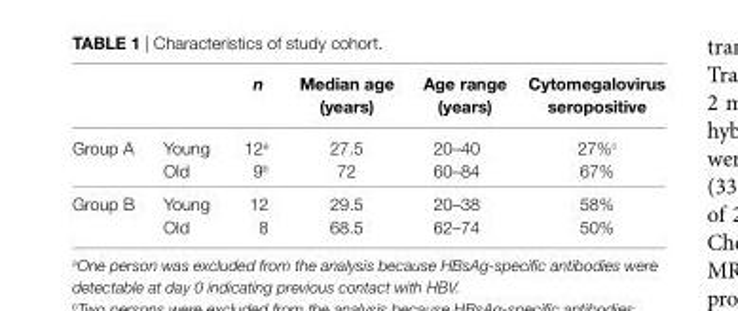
<table><thead><tr><td></td><td></td><td>n</td><td>Median age (years)</td><td>age range (years)</td><td>cytomegalovirus seropositive</td></tr></thead><tbody><tr><td rowspan="2">Group A</td><td>Young</td><td>12<sup>a</sup></td><td>27.5</td><td>20–40</td><td>27%<sup>c</sup></td></tr><tr><td>Old</td><td>9<sup>b</sup></td><td>72</td><td>60–84</td><td>67%</td></tr><tr><td rowspan="2">Group B</td><td>Young</td><td>12</td><td>29.5</td><td>20–38</td><td>58%</td></tr><tr><td>Old</td><td>8</td><td>68.5</td><td>62–74</td><td>50%</td></tr></tbody></table>